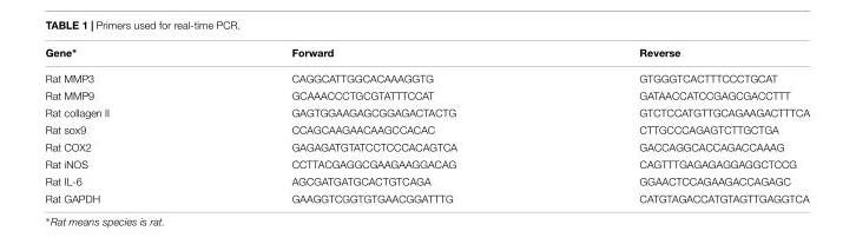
<table><thead><tr><td>Gene∗</td><td>Forward</td><td>Reverse</td></tr></thead><tbody><tr><td>Rat MMP3</td><td>CAGGCATTGGCACAAAGGTG</td><td>GTGGGTCACTTTCCCTGCAT</td></tr><tr><td>Rat MMP9</td><td>GCAAACCCTGCGTATTTCCAT</td><td>GATAACCATCCGAGCGACCTTT</td></tr><tr><td>Rat collagen II</td><td>GAGTGGAAGAGCGGAGACTACTG</td><td>GTCTCCATGTTGCAGAAGACTTTCA</td></tr><tr><td>Rat sox9</td><td>CCAGCAAGAACAAGCCACAC</td><td>CTTGCCCAGAGTCTTGCTGA</td></tr><tr><td>Rat COX2</td><td>GAGAGATGTATCCTCCCACAGTCA</td><td>GACCAGGCACCAGACCAAAG</td></tr><tr><td>Rat iNOS</td><td>CCTTACGAGGCGAAGAAGGACAG</td><td>CAGTTTGAGAGAGGAGGCTCCG</td></tr><tr><td>Rat IL-6</td><td>AGCGATGATGCACTGTCAGA</td><td>GGAACTCCAGAAGACCAGAGC</td></tr><tr><td>Rat GAPDH</td><td>GAAGGTCGGTGTGAACGGATTTG</td><td>CATGTAGACCATGTAGTTGAGGTCA</td></tr></tbody></table>